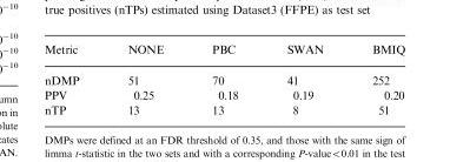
<table><thead><tr><td>Metric</td><td>NONE</td><td>PBC</td><td>SWAN</td><td>BMIQ</td></tr></thead><tbody><tr><td>nDMP</td><td>51</td><td>70</td><td>41</td><td>252</td></tr><tr><td>PPV</td><td>0.25</td><td>0.18</td><td>0.19</td><td>0.20</td></tr><tr><td>nTP</td><td>13</td><td>13</td><td>8</td><td>51</td></tr></tbody></table>